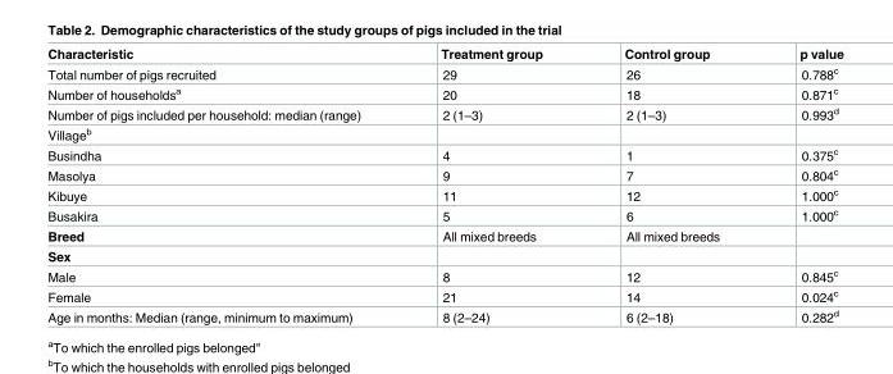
<table><thead><tr><td>Characteristic</td><td>Treatment group</td><td>Control group</td><td>p value</td></tr></thead><tbody><tr><td>Total number of pigs recruited</td><td>29</td><td>26</td><td>0.788<sup>c</sup></td></tr><tr><td>Number of households<sup>a</sup></td><td>20</td><td>18</td><td>0.871<sup>c</sup></td></tr><tr><td>Number of pigs included per household: median (range)</td><td>2 (1–3)</td><td>2 (1–3)</td><td>0.993<sup>d</sup></td></tr><tr><td colspan="4">Village<sup>b</sup></td></tr><tr><td>Busindha</td><td>4</td><td>1</td><td>0.375<sup>c</sup></td></tr><tr><td>Masolya</td><td>9</td><td>7</td><td>0.804<sup>c</sup></td></tr><tr><td>Kibuye</td><td>11</td><td>12</td><td>1.000<sup>c</sup></td></tr><tr><td>Busakira</td><td>5</td><td>6</td><td>1.000<sup>c</sup></td></tr><tr><td>Breed</td><td>All mixed breeds</td><td>All mixed breeds</td><td></td></tr><tr><td colspan="4">Sex</td></tr><tr><td>Male</td><td>8</td><td>12</td><td>0.845<sup>c</sup></td></tr><tr><td>Female</td><td>21</td><td>14</td><td>0.024<sup>c</sup></td></tr><tr><td>Age in months: Median (range, minimum to maximum)</td><td>8 (2–24)</td><td>6 (2–18)</td><td>0.282<sup>d</sup></td></tr></tbody></table>